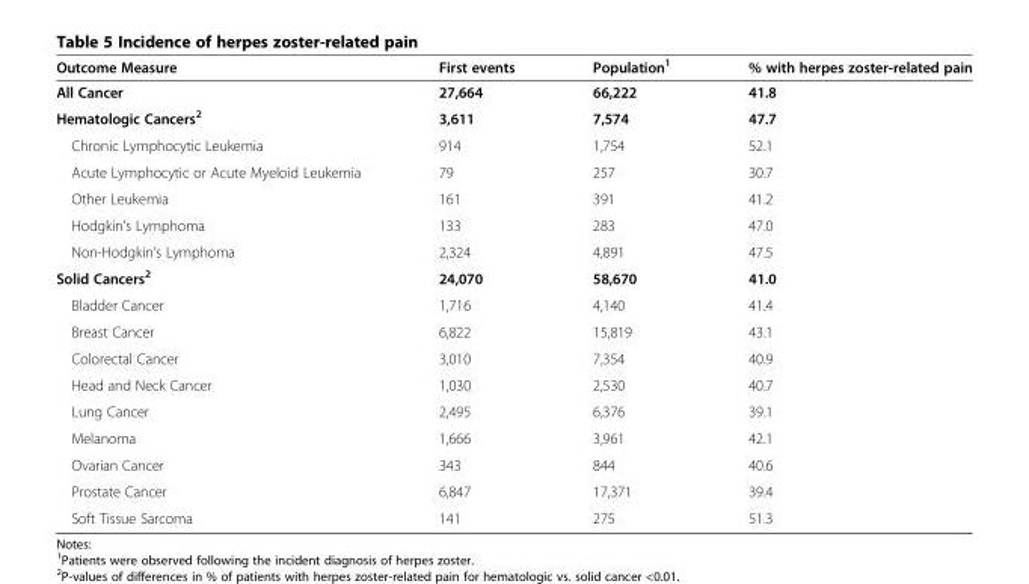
<table><thead><tr><td>Outcome Measure</td><td>First events</td><td>Population<sup>1</sup></td><td>% with herpes zoster-related pain</td></tr></thead><tbody><tr><td>All Cancer</td><td>27,664</td><td>66,222</td><td>41.8</td></tr><tr><td>Hematologic Cancers<sup>2</sup></td><td>3,611</td><td>7,574</td><td>47.7</td></tr><tr><td>Chronic Lymphocytic Leukemia</td><td>914</td><td>1,754</td><td>52.1</td></tr><tr><td>Acute Lymphocytic or Acute Myeloid Leukemia</td><td>79</td><td>257</td><td>30.7</td></tr><tr><td>Other Leukemia</td><td>161</td><td>391</td><td>41.2</td></tr><tr><td>Hodgkin’s Lymphoma</td><td>133</td><td>283</td><td>47.0</td></tr><tr><td>Non-Hodgkin’s Lymphoma</td><td>2,324</td><td>4,891</td><td>47.5</td></tr><tr><td>Solid Cancers<sup>2</sup></td><td>24,070</td><td>58,670</td><td>41.0</td></tr><tr><td>Bladder Cancer</td><td>1,716</td><td>4,140</td><td>41.4</td></tr><tr><td>Breast Cancer</td><td>6,822</td><td>15,819</td><td>43.1</td></tr><tr><td>Colorectal Cancer</td><td>3,010</td><td>7,354</td><td>40.9</td></tr><tr><td>Head and Neck Cancer</td><td>1,030</td><td>2,530</td><td>40.7</td></tr><tr><td>Lung Cancer</td><td>2,495</td><td>6,376</td><td>39.1</td></tr><tr><td>Melanoma</td><td>1,666</td><td>3,961</td><td>42.1</td></tr><tr><td>Ovarian Cancer</td><td>343</td><td>844</td><td>40.6</td></tr><tr><td>Prostate Cancer</td><td>6,847</td><td>17,371</td><td>39.4</td></tr><tr><td>Soft Tissue Sarcoma</td><td>141</td><td>275</td><td>51.3</td></tr></tbody></table>